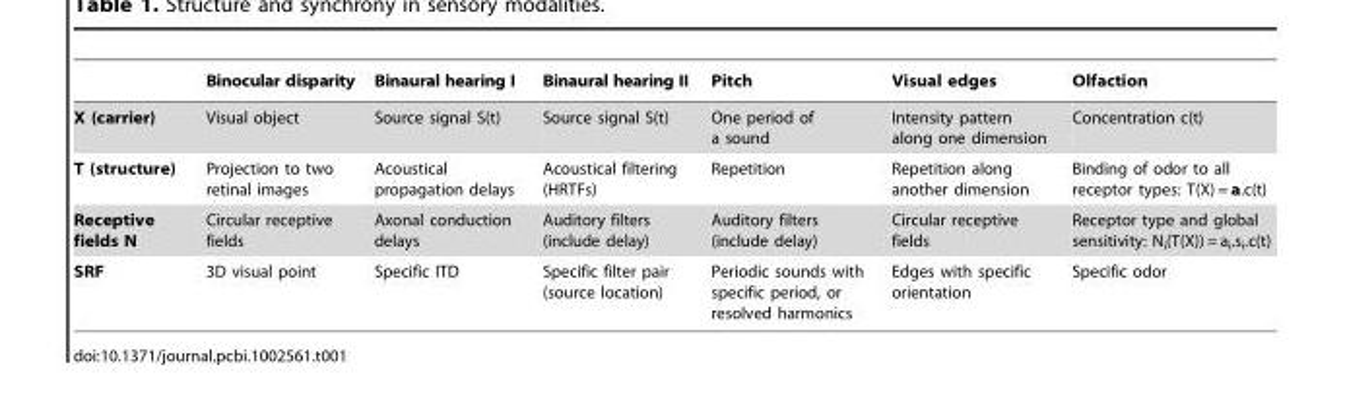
<table><thead><tr><td></td><td>Binocular disparity</td><td>Binaural hearing I</td><td>Binaural hearing II</td><td>Pitch</td><td>Visual edges</td><td>Olfaction</td></tr></thead><tbody><tr><td>X (carrier)</td><td>Visual object</td><td>Source signal S(t)</td><td>Source signal S(t)</td><td>One period of a sound</td><td>Intensity pattern along one dimension</td><td>Concentration c(t)</td></tr><tr><td>T (structure)</td><td>Projection to two retinal images</td><td>Acoustical propagation delays</td><td>Acoustical filtering (HRTFs)</td><td>Repetition</td><td>Repetition along another dimension</td><td>Binding of odor to all receptor types: T(X) = a.c(t)</td></tr><tr><td>Receptive fields N</td><td>Circular receptive fields</td><td>Axonal conduction delays</td><td>Auditory filters (include delay)</td><td>Auditory filters (include delay)</td><td>Circular receptive fields</td><td>Receptor type and global sensitivity: N<sub>i</sub>(T(X)) = a<sub>i</sub>.s<sub>i</sub>.c(t)</td></tr><tr><td>SRF</td><td>3D visual point</td><td>Specific ITD</td><td>Specific filter pair (source location)</td><td>Periodic sounds with specific period, or resolved harmonics</td><td>Edges with specific orientation</td><td>Specific odor</td></tr></tbody></table>